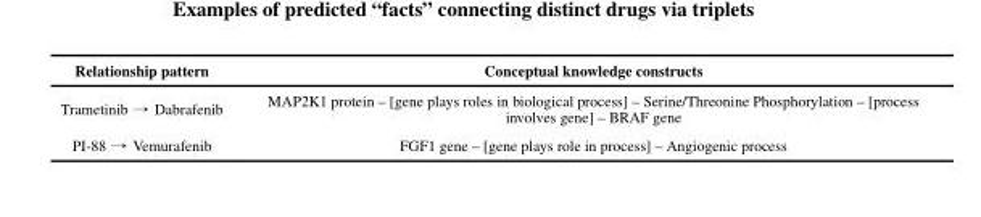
<table><thead><tr><td>Relationship pattern</td><td>Conceptual knowledge constructs</td></tr></thead><tbody><tr><td>Trametinib → Dabrafenib</td><td>MAP2K1 protein – [gene plays roles in biological process] – Serine/Threonine Phosphorylation – [process involves gene] – BRAF gene</td></tr><tr><td>PI-88 → Vemurafenib</td><td>FGF1 gene – [gene plays role in process] – Angiogenic process</td></tr></tbody></table>